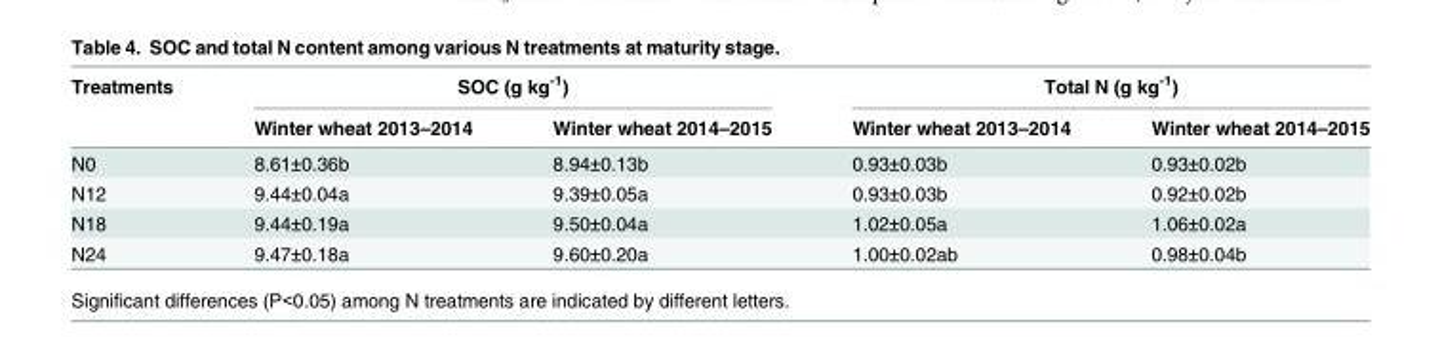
<table><thead><tr><td rowspan="2">Treatments</td><td colspan="2">SOC (g kg<sup>-1</sup>)</td><td colspan="2">Total N (g kg<sup>-1</sup>)</td></tr><tr><td>Winter wheat 2013–2014</td><td>Winter wheat 2014–2015</td><td>Winter wheat 2013–2014</td><td>Winter wheat 2014–2015</td></tr></thead><tbody><tr><td>N0</td><td>8.61±0.36b</td><td>8.94±0.13b</td><td>0.93±0.03b</td><td>0.93±0.02b</td></tr><tr><td>N12</td><td>9.44±0.04a</td><td>9.39±0.05a</td><td>0.93±0.03b</td><td>0.92±0.02b</td></tr><tr><td>N18</td><td>9.44±0.19a</td><td>9.50±0.04a</td><td>1.02±0.05a</td><td>1.06±0.02a</td></tr><tr><td>N24</td><td>9.47±0.18a</td><td>9.60±0.20a</td><td>1.00±0.02ab</td><td>0.98±0.04b</td></tr></tbody></table>